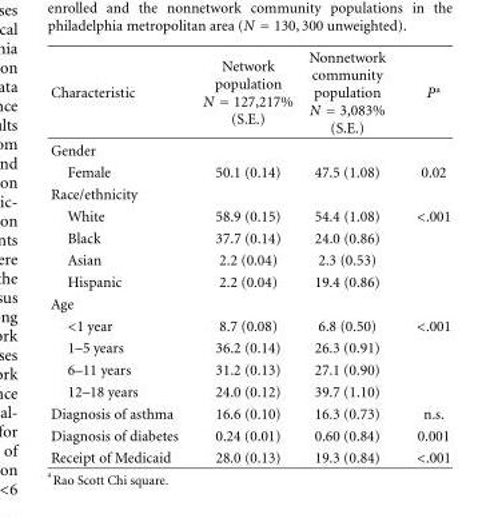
<table><thead><tr><td>Characteristic</td><td>Network population N = 127,217% (S.E.)</td><td>Nonnetwork community population N = 3,083% (S.E.)</td><td>P<sup>a</sup></td></tr></thead><tbody><tr><td colspan="4">Gender</td></tr><tr><td>Female</td><td>50.1 (0.14)</td><td>47.5 (1.08)</td><td>0.02</td></tr><tr><td colspan="4">Race/ethnicity</td></tr><tr><td>White</td><td>58.9 (0.15)</td><td>54.4 (1.08)</td><td>&lt;.001</td></tr><tr><td>Black</td><td>37.7 (0.14)</td><td>24.0 (0.86)</td><td></td></tr><tr><td>Asian</td><td>2.2 (0.04)</td><td>2.3 (0.53)</td><td></td></tr><tr><td>Hispanic</td><td>2.2 (0.04)</td><td>19.4 (0.86)</td><td></td></tr><tr><td colspan="4">Age</td></tr><tr><td>&lt;1 year</td><td>8.7 (0.08)</td><td>6.8 (0.50)</td><td>&lt;.001</td></tr><tr><td>1–5 years</td><td>36.2 (0.14)</td><td>26.3 (0.91)</td><td></td></tr><tr><td>6–11 years</td><td>31.2 (0.13)</td><td>27.1 (0.90)</td><td></td></tr><tr><td>12–18 years</td><td>24.0 (0.12)</td><td>39.7 (1.10)</td><td></td></tr><tr><td>Diagnosis of asthma</td><td>16.6 (0.10)</td><td>16.3 (0.73)</td><td>n.s.</td></tr><tr><td>Diagnosis of diabetes</td><td>0.24 (0.01)</td><td>0.60 (0.84)</td><td>0.001</td></tr><tr><td>Receipt of Medicaid</td><td>28.0 (0.13)</td><td>19.3 (0.84)</td><td>&lt;.001</td></tr></tbody></table>